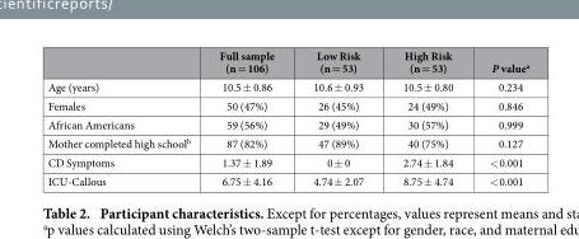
<table><thead><tr><td></td><td>Full sample (n = 106)</td><td>Low Risk (n = 53)</td><td>High Risk (n = 53)</td><td>P value<sup>a</sup></td></tr></thead><tbody><tr><td>Age (years)</td><td>10.5 ± 0.86</td><td>10.6 ± 0.93</td><td>10.5 ± 0.80</td><td>0.234</td></tr><tr><td>Females</td><td>50 (47%)</td><td>26 (45%)</td><td>24 (49%)</td><td>0.846</td></tr><tr><td>African Americans</td><td>59 (56%)</td><td>29 (49%)</td><td>30 (57%)</td><td>0.999</td></tr><tr><td>Mother completed high school<sup>b</sup></td><td>87 (82%)</td><td>47 (89%)</td><td>40 (75%)</td><td>0.127</td></tr><tr><td>CD Symptoms</td><td>1.37 ± 1.89</td><td>0 ± 0</td><td>2.74 ± 1.84</td><td>&lt; 0.001</td></tr><tr><td>ICU-Callous</td><td>6.75 ± 4.16</td><td>4.74 ± 2.07</td><td>8.75 ± 4.74</td><td>&lt; 0.001</td></tr></tbody></table>